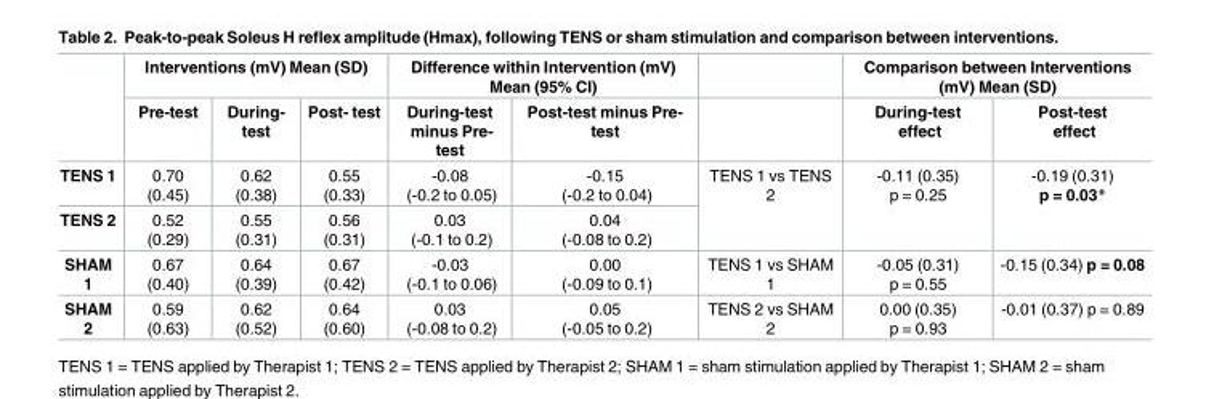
<table><thead><tr><td rowspan="2"></td><td colspan="3">Interventions (mV) Mean (SD)</td><td colspan="2">Difference within Intervention (mV) Mean (95% CI)</td><td rowspan="2"></td><td colspan="2">Comparison between Interventions (mV) Mean (SD)</td></tr><tr><td>Pre-test</td><td>During- test</td><td>Post- test</td><td>During-test minus Pre- test</td><td>Post-test minus Pre- test</td><td>During-test effect</td><td>Post-test effect</td></tr></thead><tbody><tr><td>TENS 1</td><td>0.70 (0.45)</td><td>0.62 (0.38)</td><td>0.55 (0.33)</td><td>-0.08 (-0.2 to 0.05)</td><td>-0.15 (-0.2 to 0.04)</td><td rowspan="2">TENS 1 vs TENS 2</td><td rowspan="2">-0.11 (0.35) p = 0.25</td><td rowspan="2">-0.19 (0.31) p = 0.03*</td></tr><tr><td>TENS 2</td><td>0.52 (0.29)</td><td>0.55 (0.31)</td><td>0.56 (0.31)</td><td>0.03 (-0.1 to 0.2)</td><td>0.04 (-0.08 to 0.2)</td></tr><tr><td>SHAM 1</td><td>0.67 (0.40)</td><td>0.64 (0.39)</td><td>0.67 (0.42)</td><td>-0.03 (-0.1 to 0.06)</td><td>0.00 (-0.09 to 0.1)</td><td>TENS 1 vs SHAM 1</td><td>-0.05 (0.31) p = 0.55</td><td>-0.15 (0.34) p = 0.08</td></tr><tr><td>SHAM 2</td><td>0.59 (0.63)</td><td>0.62 (0.52)</td><td>0.64 (0.60)</td><td>0.03 (-0.08 to 0.2)</td><td>0.05 (-0.05 to 0.2)</td><td>TENS 2 vs SHAM 2</td><td>0.00 (0.35) p = 0.93</td><td>-0.01 (0.37) p = 0.89</td></tr></tbody></table>